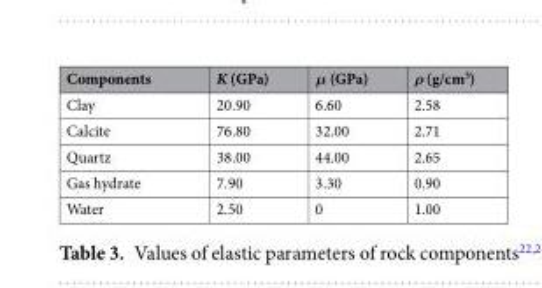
<table><thead><tr><td>Components</td><td>K (GPa)</td><td>μ (GPa)</td><td>ρ (g/cm<sup>3</sup>)</td></tr></thead><tbody><tr><td>Clay</td><td>20.90</td><td>6.60</td><td>2.58</td></tr><tr><td>Calcite</td><td>76.80</td><td>32.00</td><td>2.71</td></tr><tr><td>Quartz</td><td>38.00</td><td>44.00</td><td>2.65</td></tr><tr><td>Gas hydrate</td><td>7.90</td><td>3.30</td><td>0.90</td></tr><tr><td>Water</td><td>2.50</td><td>0</td><td>1.00</td></tr></tbody></table>